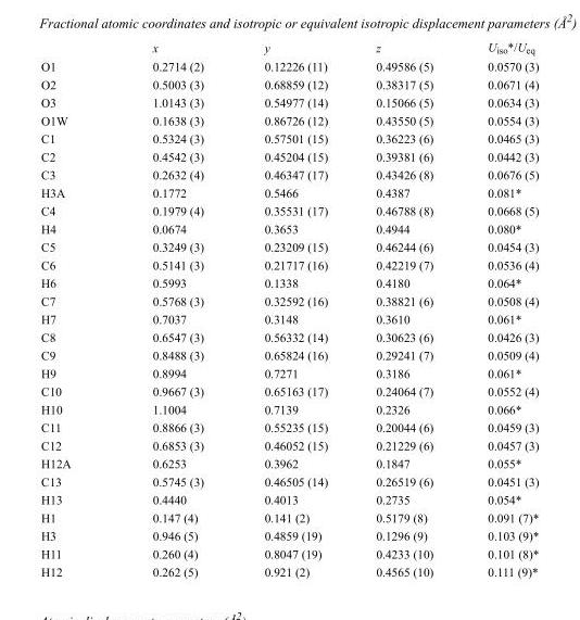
<table><thead><tr><td></td><td>x</td><td>y</td><td>z</td><td>U<sub>iso</sub>*/U<sub>eq</sub></td></tr></thead><tbody><tr><td>O1</td><td>0.2714 (2)</td><td>0.12226 (11)</td><td>0.49586 (5)</td><td>0.0570 (3)</td></tr><tr><td>O2</td><td>0.5003 (3)</td><td>0.68859 (12)</td><td>0.38317 (5)</td><td>0.0671 (4)</td></tr><tr><td>O3</td><td>1.0143 (3)</td><td>0.54977 (14)</td><td>0.15066 (5)</td><td>0.0634 (3)</td></tr><tr><td>O1W</td><td>0.1638 (3)</td><td>0.86726 (12)</td><td>0.43550 (5)</td><td>0.0554 (3)</td></tr><tr><td>C1</td><td>0.5324 (3)</td><td>0.57501 (15)</td><td>0.36223 (6)</td><td>0.0465 (3)</td></tr><tr><td>C2</td><td>0.4542 (3)</td><td>0.45204 (15)</td><td>0.39381 (6)</td><td>0.0442 (3)</td></tr><tr><td>C3</td><td>0.2632 (4)</td><td>0.46347 (17)</td><td>0.43426 (8)</td><td>0.0676 (5)</td></tr><tr><td>H3A</td><td>0.1772</td><td>0.5466</td><td>0.4387</td><td>0.081*</td></tr><tr><td>C4</td><td>0.1979 (4)</td><td>0.35531 (17)</td><td>0.46788 (8)</td><td>0.0668 (5)</td></tr><tr><td>H4</td><td>0.0674</td><td>0.3653</td><td>0.4944</td><td>0.080*</td></tr><tr><td>C5</td><td>0.3249 (3)</td><td>0.23209 (15)</td><td>0.46244 (6)</td><td>0.0454 (3)</td></tr><tr><td>C6</td><td>0.5141 (3)</td><td>0.21717 (16)</td><td>0.42219 (7)</td><td>0.0536 (4)</td></tr><tr><td>H6</td><td>0.5993</td><td>0.1338</td><td>0.4180</td><td>0.064*</td></tr><tr><td>C7</td><td>0.5768 (3)</td><td>0.32592 (16)</td><td>0.38821 (6)</td><td>0.0508 (4)</td></tr><tr><td>H7</td><td>0.7037</td><td>0.3148</td><td>0.3610</td><td>0.061*</td></tr><tr><td>C8</td><td>0.6547 (3)</td><td>0.56332 (14)</td><td>0.30623 (6)</td><td>0.0426 (3)</td></tr><tr><td>C9</td><td>0.8488 (3)</td><td>0.65824 (16)</td><td>0.29241 (7)</td><td>0.0509 (4)</td></tr><tr><td>H9</td><td>0.8994</td><td>0.7271</td><td>0.3186</td><td>0.061*</td></tr><tr><td>C10</td><td>0.9667 (3)</td><td>0.65163 (17)</td><td>0.24064 (7)</td><td>0.0552 (4)</td></tr><tr><td>H10</td><td>1.1004</td><td>0.7139</td><td>0.2326</td><td>0.066*</td></tr><tr><td>C11</td><td>0.8866 (3)</td><td>0.55235 (15)</td><td>0.20044 (6)</td><td>0.0459 (3)</td></tr><tr><td>C12</td><td>0.6853 (3)</td><td>0.46052 (15)</td><td>0.21229 (6)</td><td>0.0457 (3)</td></tr><tr><td>H12A</td><td>0.6253</td><td>0.3962</td><td>0.1847</td><td>0.055*</td></tr><tr><td>C13</td><td>0.5745 (3)</td><td>0.46505 (14)</td><td>0.26519 (6)</td><td>0.0451 (3)</td></tr><tr><td>H13</td><td>0.4440</td><td>0.4013</td><td>0.2735</td><td>0.054*</td></tr><tr><td>H1</td><td>0.147 (4)</td><td>0.141 (2)</td><td>0.5179 (8)</td><td>0.091 (7)*</td></tr><tr><td>H3</td><td>0.946 (5)</td><td>0.4859 (19)</td><td>0.1296 (9)</td><td>0.103 (9)*</td></tr><tr><td>H11</td><td>0.260 (4)</td><td>0.8047 (19)</td><td>0.4233 (10)</td><td>0.101 (8)*</td></tr><tr><td>H12</td><td>0.262 (5)</td><td>0.921 (2)</td><td>0.4565 (10)</td><td>0.111 (9)*</td></tr></tbody></table>